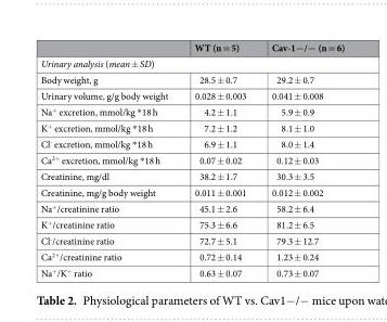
<table><thead><tr><td></td><td>WT (n = 5)</td><td>Cav-1−/− (n = 6)</td></tr></thead><tbody><tr><td colspan="3">Urinary analysis (mean ± SD)</td></tr><tr><td>Body weight, g</td><td>28.5 ± 0.7</td><td>29.2 ± 0.7</td></tr><tr><td>Urinary volume, g/g body weight</td><td>0.028 ± 0.003</td><td>0.041 ± 0.008</td></tr><tr><td>Na<sup>+</sup> excretion, mmol/kg *18 h</td><td>4.2 ± 1.1</td><td>5.9 ± 0.9</td></tr><tr><td>K<sup>+</sup> excretion, mmol/kg *18 h</td><td>7.2 ± 1.2</td><td>8.1 ± 1.0</td></tr><tr><td>Cl<sup>-</sup> excretion, mmol/kg *18 h</td><td>6.9 ± 1.1</td><td>8.0 ± 1.4</td></tr><tr><td>Ca<sup>2+</sup> excretion, mmol/kg *18 h</td><td>0.07 ± 0.02</td><td>0.12 ± 0.03</td></tr><tr><td>Creatinine, mg/dl</td><td>38.2 ± 1.7</td><td>30.3 ± 3.5</td></tr><tr><td>Creatinine, mg/g body weight</td><td>0.011 ± 0.001</td><td>0.012 ± 0.002</td></tr><tr><td>Na<sup>+</sup>/creatinine ratio</td><td>45.1 ± 2.6</td><td>58.2 ± 6.4</td></tr><tr><td>K<sup>+</sup>/creatinine ratio</td><td>75.3 ± 6.6</td><td>81.2 ± 6.5</td></tr><tr><td>Cl<sup>-</sup>/creatinine ratio</td><td>72.7 ± 5.1</td><td>79.3 ± 12.7</td></tr><tr><td>Ca<sup>2+</sup>/creatinine ratio</td><td>0.72 ± 0.14</td><td>1.23 ± 0.24</td></tr><tr><td>Na<sup>+</sup>/K<sup>+</sup> ratio</td><td>0.63 ± 0.07</td><td>0.73 ± 0.07</td></tr></tbody></table>